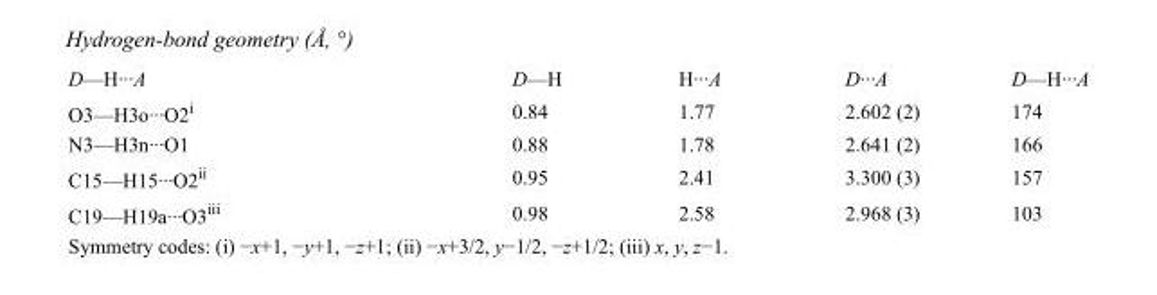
<table><tbody><tr><td>D—H···A</td><td>D—H</td><td>H···A</td><td>D···A</td><td>D—H···A</td></tr><tr><td>O3—H3o···O2<sup>i</sup></td><td>0.84</td><td>1.77</td><td>2.602 (2)</td><td>174</td></tr><tr><td>N3—H3n···O1</td><td>0.88</td><td>1.78</td><td>2.641 (2)</td><td>166</td></tr><tr><td>C15—H15···O2<sup>ii</sup></td><td>0.95</td><td>2.41</td><td>3.300 (3)</td><td>157</td></tr><tr><td>C19—H19a···O3<sup>iii</sup></td><td>0.98</td><td>2.58</td><td>2.968 (3)</td><td>103</td></tr></tbody></table>